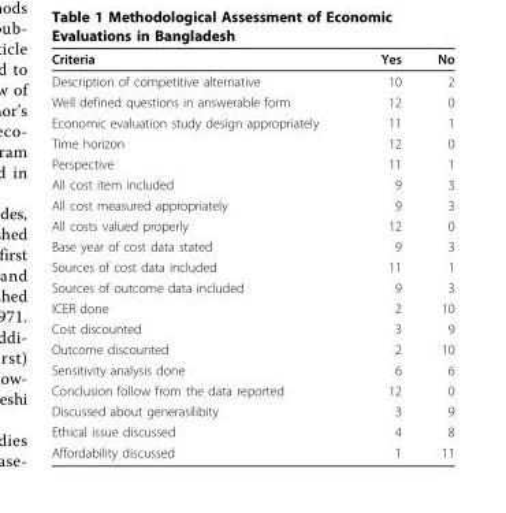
<table><thead><tr><td>Criteria</td><td>Yes</td><td>No</td></tr></thead><tbody><tr><td>Description of competitive alternative</td><td>10</td><td>2</td></tr><tr><td>Well defined questions in answerable form</td><td>12</td><td>0</td></tr><tr><td>Economic evaluation study design appropriately</td><td>11</td><td>1</td></tr><tr><td>Time horizon</td><td>12</td><td>0</td></tr><tr><td>Perspective</td><td>11</td><td>1</td></tr><tr><td>All cost item included</td><td>9</td><td>3</td></tr><tr><td>All cost measured appropriately</td><td>9</td><td>3</td></tr><tr><td>All costs valued properly</td><td>12</td><td>0</td></tr><tr><td>Base year of cost data stated</td><td>9</td><td>3</td></tr><tr><td>Sources of cost data included</td><td>11</td><td>1</td></tr><tr><td>Sources of outcome data included</td><td>9</td><td>3</td></tr><tr><td>ICER done</td><td>2</td><td>10</td></tr><tr><td>Cost discounted</td><td>3</td><td>9</td></tr><tr><td>Outcome discounted</td><td>2</td><td>10</td></tr><tr><td>Sensitivity analysis done</td><td>6</td><td>6</td></tr><tr><td>Conclusion follow from the data reported</td><td>12</td><td>0</td></tr><tr><td>Discussed about generasilibity</td><td>3</td><td>9</td></tr><tr><td>Ethical issue discussed</td><td>4</td><td>8</td></tr><tr><td>Affordability discussed</td><td>1</td><td>11</td></tr></tbody></table>